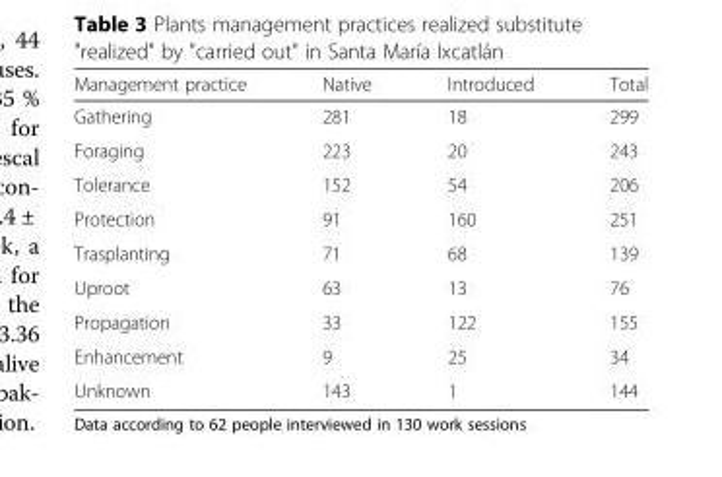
<table><thead><tr><td>Management practice</td><td>Native</td><td>Introduced</td><td>Total</td></tr></thead><tbody><tr><td>Gathering</td><td>281</td><td>18</td><td>299</td></tr><tr><td>Foraging</td><td>223</td><td>20</td><td>243</td></tr><tr><td>Tolerance</td><td>152</td><td>54</td><td>206</td></tr><tr><td>Protection</td><td>91</td><td>160</td><td>251</td></tr><tr><td>Trasplanting</td><td>71</td><td>68</td><td>139</td></tr><tr><td>Uproot</td><td>63</td><td>13</td><td>76</td></tr><tr><td>Propagation</td><td>33</td><td>122</td><td>155</td></tr><tr><td>Enhancement</td><td>9</td><td>25</td><td>34</td></tr><tr><td>Unknown</td><td>143</td><td>1</td><td>144</td></tr></tbody></table>